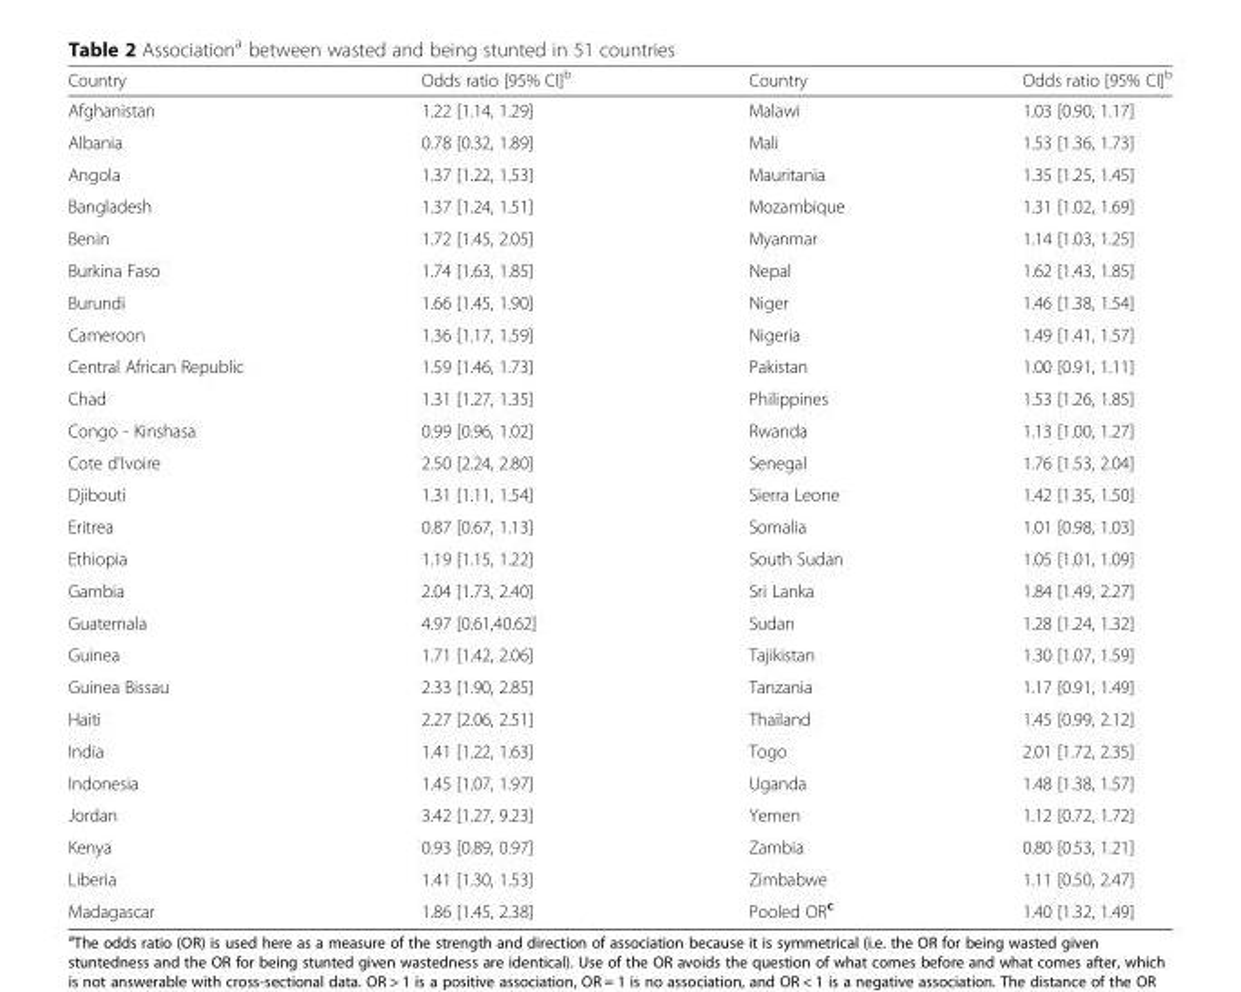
<table><thead><tr><td>Country</td><td>Odds ratio [95% CI]<sup>b</sup></td><td>Country</td><td>Odds ratio [95% CI]<sup>b</sup></td></tr></thead><tbody><tr><td>Afghanistan</td><td>1.22 [1.14, 1.29]</td><td>Malawi</td><td>1.03 [0.90, 1.17]</td></tr><tr><td>Albania</td><td>0.78 [0.32, 1.89]</td><td>Mali</td><td>1.53 [1.36, 1.73]</td></tr><tr><td>Angola</td><td>1.37 [1.22, 1.53]</td><td>Mauritania</td><td>1.35 [1.25, 1.45]</td></tr><tr><td>Bangladesh</td><td>1.37 [1.24, 1.51]</td><td>Mozambique</td><td>1.31 [1.02, 1.69]</td></tr><tr><td>Benin</td><td>1.72 [1.45, 2.05]</td><td>Myanmar</td><td>1.14 [1.03, 1.25]</td></tr><tr><td>Burkina Faso</td><td>1.74 [1.63, 1.85]</td><td>Nepal</td><td>1.62 [1.43, 1.85]</td></tr><tr><td>Burundi</td><td>1.66 [1.45, 1.90]</td><td>Niger</td><td>1.46 [1.38, 1.54]</td></tr><tr><td>Cameroon</td><td>1.36 [1.17, 1.59]</td><td>Nigeria</td><td>1.49 [1.41, 1.57]</td></tr><tr><td>Central African Republic</td><td>1.59 [1.46, 1.73]</td><td>Pakistan</td><td>1.00 [0.91, 1.11]</td></tr><tr><td>Chad</td><td>1.31 [1.27, 1.35]</td><td>Philippines</td><td>1.53 [1.26, 1.85]</td></tr><tr><td>Congo - Kinshasa</td><td>0.99 [0.96, 1.02]</td><td>Rwanda</td><td>1.13 [1.00, 1.27]</td></tr><tr><td>Cote d’Ivoire</td><td>2.50 [2.24, 2.80]</td><td>Senegal</td><td>1.76 [1.53, 2.04]</td></tr><tr><td>Djibouti</td><td>1.31 [1.11, 1.54]</td><td>Sierra Leone</td><td>1.42 [1.35, 1.50]</td></tr><tr><td>Eritrea</td><td>0.87 [0.67, 1.13]</td><td>Somalia</td><td>1.01 [0.98, 1.03]</td></tr><tr><td>Ethiopia</td><td>1.19 [1.15, 1.22]</td><td>South Sudan</td><td>1.05 [1.01, 1.09]</td></tr><tr><td>Gambia</td><td>2.04 [1.73, 2.40]</td><td>Sri Lanka</td><td>1.84 [1.49, 2.27]</td></tr><tr><td>Guatemala</td><td>4.97 [0.61,40.62]</td><td>Sudan</td><td>1.28 [1.24, 1.32]</td></tr><tr><td>Guinea</td><td>1.71 [1.42, 2.06]</td><td>Tajikistan</td><td>1.30 [1.07, 1.59]</td></tr><tr><td>Guinea Bissau</td><td>2.33 [1.90, 2.85]</td><td>Tanzania</td><td>1.17 [0.91, 1.49]</td></tr><tr><td>Haiti</td><td>2.27 [2.06, 2.51]</td><td>Thailand</td><td>1.45 [0.99, 2.12]</td></tr><tr><td>India</td><td>1.41 [1.22, 1.63]</td><td>Togo</td><td>2.01 [1.72, 2.35]</td></tr><tr><td>Indonesia</td><td>1.45 [1.07, 1.97]</td><td>Uganda</td><td>1.48 [1.38, 1.57]</td></tr><tr><td>Jordan</td><td>3.42 [1.27, 9.23]</td><td>Yemen</td><td>1.12 [0.72, 1.72]</td></tr><tr><td>Kenya</td><td>0.93 [0.89, 0.97]</td><td>Zambia</td><td>0.80 [0.53, 1.21]</td></tr><tr><td>Liberia</td><td>1.41 [1.30, 1.53]</td><td>Zimbabwe</td><td>1.11 [0.50, 2.47]</td></tr><tr><td>Madagascar</td><td>1.86 [1.45, 2.38]</td><td>Pooled OR<sup>c</sup></td><td>1.40 [1.32, 1.49]</td></tr></tbody></table>